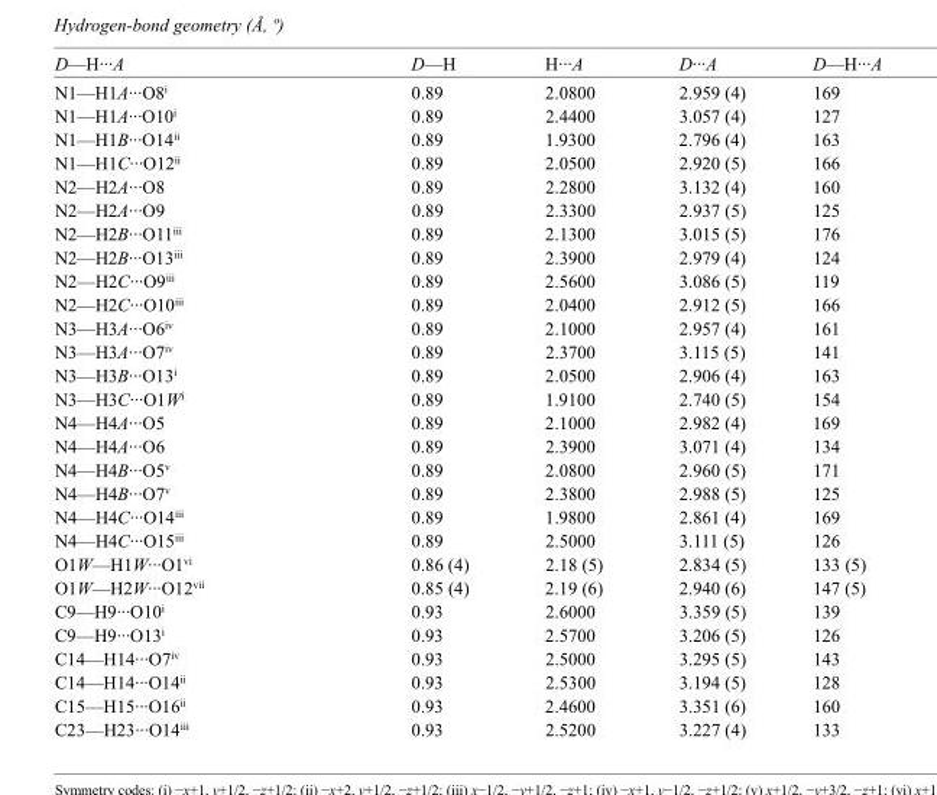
<table><tbody><tr><td>D—H···A</td><td>D—H</td><td>H···A</td><td>D···A</td><td>D—H···A</td></tr><tr><td>N1—H1A···O8<sup>i</sup></td><td>0.89</td><td>2.0800</td><td>2.959 (4)</td><td>169</td></tr><tr><td>N1—H1A···O10<sup>i</sup></td><td>0.89</td><td>2.4400</td><td>3.057 (4)</td><td>127</td></tr><tr><td>N1—H1B···O14<sup>ii</sup></td><td>0.89</td><td>1.9300</td><td>2.796 (4)</td><td>163</td></tr><tr><td>N1—H1C···O12<sup>ii</sup></td><td>0.89</td><td>2.0500</td><td>2.920 (5)</td><td>166</td></tr><tr><td>N2—H2A···O8</td><td>0.89</td><td>2.2800</td><td>3.132 (4)</td><td>160</td></tr><tr><td>N2—H2A···O9</td><td>0.89</td><td>2.3300</td><td>2.937 (5)</td><td>125</td></tr><tr><td>N2—H2B···O11<sup>iii</sup></td><td>0.89</td><td>2.1300</td><td>3.015 (5)</td><td>176</td></tr><tr><td>N2—H2B···O13<sup>iii</sup></td><td>0.89</td><td>2.3900</td><td>2.979 (4)</td><td>124</td></tr><tr><td>N2—H2C···O9<sup>iii</sup></td><td>0.89</td><td>2.5600</td><td>3.086 (5)</td><td>119</td></tr><tr><td>N2—H2C···O10<sup>iii</sup></td><td>0.89</td><td>2.0400</td><td>2.912 (5)</td><td>166</td></tr><tr><td>N3—H3A···O6<sup>iv</sup></td><td>0.89</td><td>2.1000</td><td>2.957 (4)</td><td>161</td></tr><tr><td>N3—H3A···O7<sup>iv</sup></td><td>0.89</td><td>2.3700</td><td>3.115 (5)</td><td>141</td></tr><tr><td>N3—H3B···O13<sup>i</sup></td><td>0.89</td><td>2.0500</td><td>2.906 (4)</td><td>163</td></tr><tr><td>N3—H3C···O1W<sup>i</sup></td><td>0.89</td><td>1.9100</td><td>2.740 (5)</td><td>154</td></tr><tr><td>N4—H4A···O5</td><td>0.89</td><td>2.1000</td><td>2.982 (4)</td><td>169</td></tr><tr><td>N4—H4A···O6</td><td>0.89</td><td>2.3900</td><td>3.071 (4)</td><td>134</td></tr><tr><td>N4—H4B···O5<sup>v</sup></td><td>0.89</td><td>2.0800</td><td>2.960 (5)</td><td>171</td></tr><tr><td>N4—H4B···O7<sup>v</sup></td><td>0.89</td><td>2.3800</td><td>2.988 (5)</td><td>125</td></tr><tr><td>N4—H4C···O14<sup>iii</sup></td><td>0.89</td><td>1.9800</td><td>2.861 (4)</td><td>169</td></tr><tr><td>N4—H4C···O15<sup>iii</sup></td><td>0.89</td><td>2.5000</td><td>3.111 (5)</td><td>126</td></tr><tr><td>O1W—H1W···O1<sup>vi</sup></td><td>0.86 (4)</td><td>2.18 (5)</td><td>2.834 (5)</td><td>133 (5)</td></tr><tr><td>O1W—H2W···O12<sup>vii</sup></td><td>0.85 (4)</td><td>2.19 (6)</td><td>2.940 (6)</td><td>147 (5)</td></tr><tr><td>C9—H9···O10<sup>i</sup></td><td>0.93</td><td>2.6000</td><td>3.359 (5)</td><td>139</td></tr><tr><td>C9—H9···O13<sup>i</sup></td><td>0.93</td><td>2.5700</td><td>3.206 (5)</td><td>126</td></tr><tr><td>C14—H14···O7<sup>iv</sup></td><td>0.93</td><td>2.5000</td><td>3.295 (5)</td><td>143</td></tr><tr><td>C14—H14···O14<sup>ii</sup></td><td>0.93</td><td>2.5300</td><td>3.194 (5)</td><td>128</td></tr><tr><td>C15—H15···O16<sup>ii</sup></td><td>0.93</td><td>2.4600</td><td>3.351 (6)</td><td>160</td></tr><tr><td>C23—H23···O14<sup>iii</sup></td><td>0.93</td><td>2.5200</td><td>3.227 (4)</td><td>133</td></tr></tbody></table>